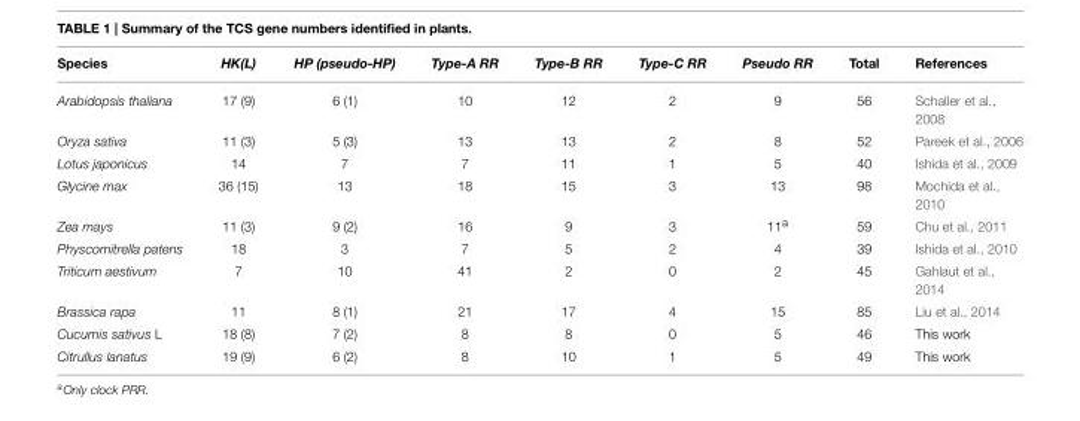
<table><thead><tr><td>Species</td><td>HK(L)</td><td>HP (pseudo-HP)</td><td>Type-A RR</td><td>Type-B RR</td><td>Type-C RR</td><td>Pseudo RR</td><td>Total</td><td>References</td></tr></thead><tbody><tr><td>Arabidopsis thaliana</td><td>17 (9)</td><td>6 (1)</td><td>10</td><td>12</td><td>2</td><td>9</td><td>56</td><td>Schaller et al., 2008</td></tr><tr><td>Oryza sativa</td><td>11 (3)</td><td>5 (3)</td><td>13</td><td>13</td><td>2</td><td>8</td><td>52</td><td>Pareek et al., 2006</td></tr><tr><td>Lotus japonicus</td><td>14</td><td>7</td><td>7</td><td>11</td><td>1</td><td>5</td><td>40</td><td>Ishida et al., 2009</td></tr><tr><td>Glycine max</td><td>36 (15)</td><td>13</td><td>18</td><td>15</td><td>3</td><td>13</td><td>98</td><td>Mochida et al., 2010</td></tr><tr><td>Zea mays</td><td>11 (3)</td><td>9 (2)</td><td>16</td><td>9</td><td>3</td><td>11<sup>a</sup></td><td>59</td><td>Chu et al., 2011</td></tr><tr><td>Physcomitrella patens</td><td>18</td><td>3</td><td>7</td><td>5</td><td>2</td><td>4</td><td>39</td><td>Ishida et al., 2010</td></tr><tr><td>Triticum aestivum</td><td>7</td><td>10</td><td>41</td><td>2</td><td>0</td><td>2</td><td>45</td><td>Gahlaut et al., 2014</td></tr><tr><td>Brassica rapa</td><td>11</td><td>8 (1)</td><td>21</td><td>17</td><td>4</td><td>15</td><td>85</td><td>Liu et al., 2014</td></tr><tr><td>Cucumis sativus L</td><td>18 (8)</td><td>7 (2)</td><td>8</td><td>8</td><td>0</td><td>5</td><td>46</td><td>This work</td></tr><tr><td>Citrullus lanatus</td><td>19 (9)</td><td>6 (2)</td><td>8</td><td>10</td><td>1</td><td>5</td><td>49</td><td>This work</td></tr></tbody></table>